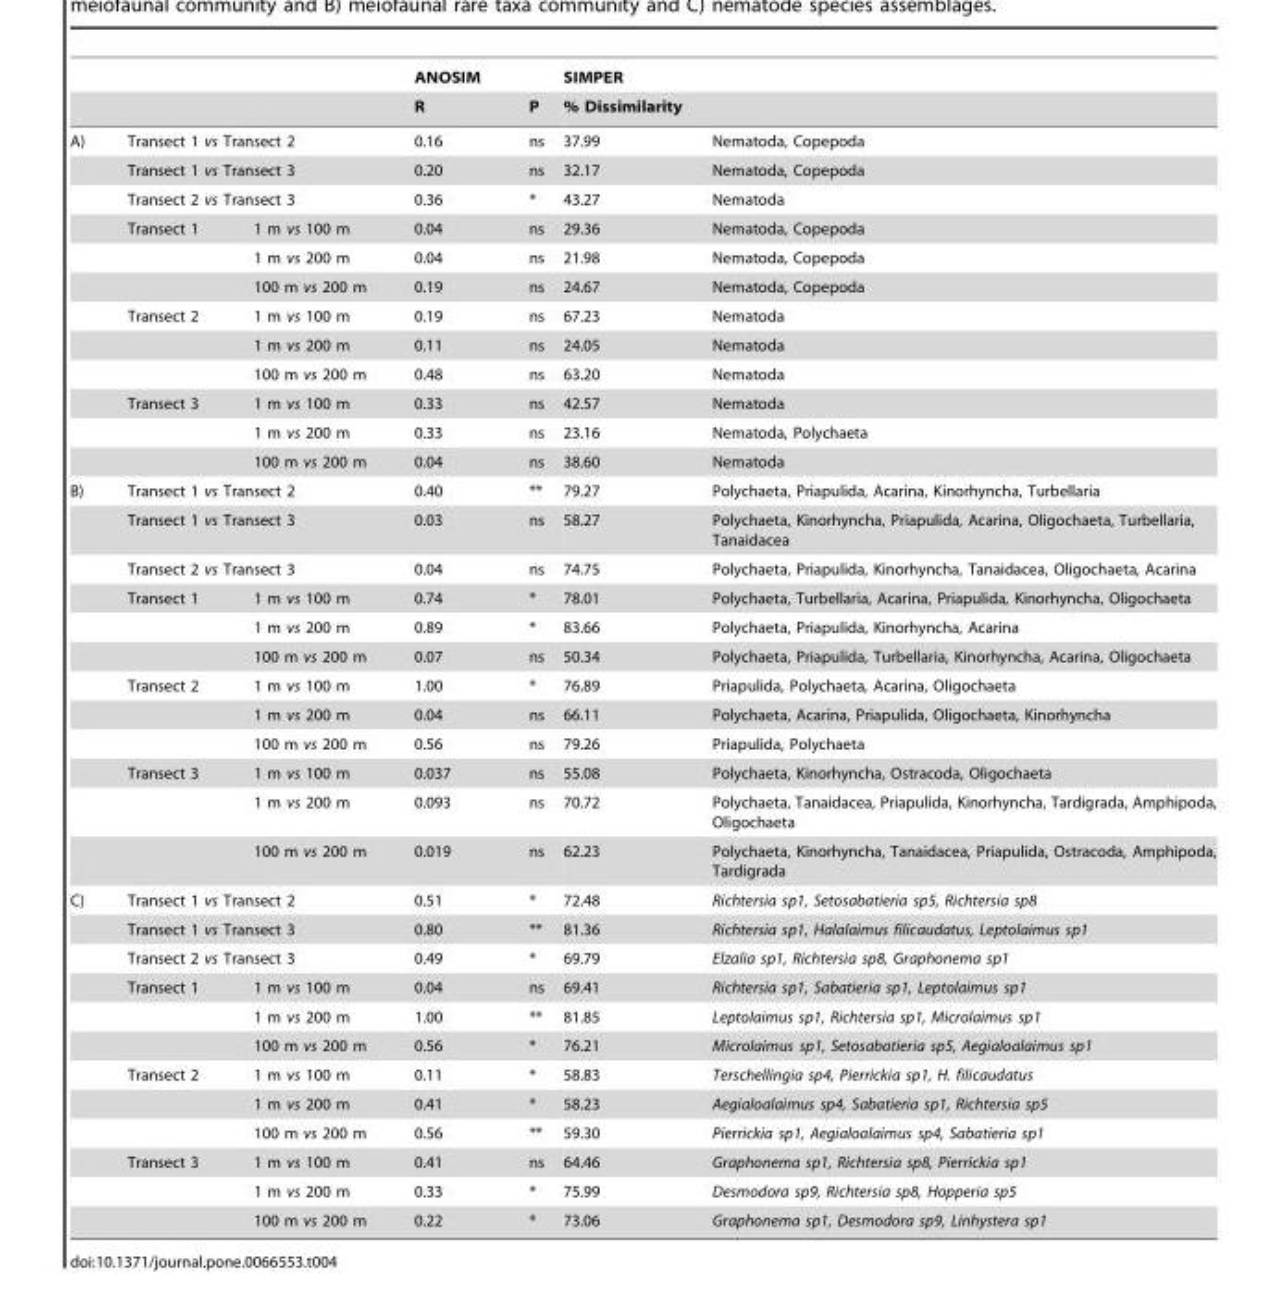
<table><thead><tr><td rowspan="2"></td><td rowspan="2"></td><td rowspan="2"></td><td rowspan="2">ANOSIM R</td><td rowspan="2">P</td><td rowspan="2">SIMPER % Dissimilarity</td><td rowspan="2"></td></tr><tr></tr></thead><tbody><tr><td rowspan="12">A)</td><td colspan="2">Transect 1 vs Transect 2</td><td>0.16</td><td>ns</td><td>37.99</td><td>Nematoda, Copepoda</td></tr><tr><td colspan="2">Transect 1 vs Transect 3</td><td>0.20</td><td>ns</td><td>32.17</td><td>Nematoda, Copepoda</td></tr><tr><td colspan="2">Transect 2 vs Transect 3</td><td>0.36</td><td>*</td><td>43.27</td><td>Nematoda</td></tr><tr><td>Transect 1</td><td>1 m vs 100 m</td><td>0.04</td><td>ns</td><td>29.36</td><td>Nematoda, Copepoda</td></tr><tr><td></td><td>1 m vs 200 m</td><td>0.04</td><td>ns</td><td>21.98</td><td>Nematoda, Copepoda</td></tr><tr><td></td><td>100 m vs 200 m</td><td>0.19</td><td>ns</td><td>24.67</td><td>Nematoda, Copepoda</td></tr><tr><td>Transect 2</td><td>1 m vs 100 m</td><td>0.19</td><td>ns</td><td>67.23</td><td>Nematoda</td></tr><tr><td></td><td>1 m vs 200 m</td><td>0.11</td><td>ns</td><td>24.05</td><td>Nematoda</td></tr><tr><td></td><td>100 m vs 200 m</td><td>0.48</td><td>ns</td><td>63.20</td><td>Nematoda</td></tr><tr><td>Transect 3</td><td>1 m vs 100 m</td><td>0.33</td><td>ns</td><td>42.57</td><td>Nematoda</td></tr><tr><td></td><td>1 m vs 200 m</td><td>0.33</td><td>ns</td><td>23.16</td><td>Nematoda, Polychaeta</td></tr><tr><td></td><td>100 m vs 200 m</td><td>0.04</td><td>ns</td><td>38.60</td><td>Nematoda</td></tr><tr><td rowspan="12">B)</td><td colspan="2">Transect 1 vs Transect 2</td><td>0.40</td><td>**</td><td>79.27</td><td>Polychaeta, Priapulida, Acarina, Kinorhyncha, Turbellaria</td></tr><tr><td colspan="2">Transect 1 vs Transect 3</td><td>0.03</td><td>ns</td><td>58.27</td><td>Polychaeta, Kinorhyncha, Priapulida, Acarina, Oligochaeta, Turbellaria, Tanaidacea</td></tr><tr><td colspan="2">Transect 2 vs Transect 3</td><td>0.04</td><td>ns</td><td>74.75</td><td>Polychaeta, Priapulida, Kinorhyncha, Tanaidacea, Oligochaeta, Acarina</td></tr><tr><td>Transect 1</td><td>1 m vs 100 m</td><td>0.74</td><td>*</td><td>78.01</td><td>Polychaeta, Turbellaria, Acarina, Priapulida, Kinorhyncha, Oligochaeta</td></tr><tr><td></td><td>1 m vs 200 m</td><td>0.89</td><td>*</td><td>83.66</td><td>Polychaeta, Priapulida, Kinorhyncha, Acarina</td></tr><tr><td></td><td>100 m vs 200 m</td><td>0.07</td><td>ns</td><td>50.34</td><td>Polychaeta, Priapulida, Turbellaria, Kinorhyncha, Acarina, Oligochaeta</td></tr><tr><td>Transect 2</td><td>1 m vs 100 m</td><td>1.00</td><td>*</td><td>76.89</td><td>Priapulida, Polychaeta, Acarina, Oligochaeta</td></tr><tr><td></td><td>1 m vs 200 m</td><td>0.04</td><td>ns</td><td>66.11</td><td>Polychaeta, Acarina, Priapulida, Oligochaeta, Kinorhyncha</td></tr><tr><td></td><td>100 m vs 200 m</td><td>0.56</td><td>ns</td><td>79.26</td><td>Priapulida, Polychaeta</td></tr><tr><td>Transect 3</td><td>1 m vs 100 m</td><td>0.037</td><td>ns</td><td>55.08</td><td>Polychaeta, Kinorhyncha, Ostracoda, Oligochaeta</td></tr><tr><td></td><td>1 m vs 200 m</td><td>0.093</td><td>ns</td><td>70.72</td><td>Polychaeta, Tanaidacea, Priapulida, Kinorhyncha, Tardigrada, Amphipoda, Oligochaeta</td></tr><tr><td></td><td>100 m vs 200 m</td><td>0.019</td><td>ns</td><td>62.23</td><td>Polychaeta, Kinorhyncha, Tanaidacea, Priapulida, Ostracoda, Amphipoda, Tardigrada</td></tr><tr><td rowspan="12">C)</td><td colspan="2">Transect 1 vs Transect 2</td><td>0.51</td><td>*</td><td>72.48</td><td>Richtersia sp1, Setosabatieria sp5, Richtersia sp8</td></tr><tr><td colspan="2">Transect 1 vs Transect 3</td><td>0.80</td><td>**</td><td>81.36</td><td>Richtersia sp1, Halalaimus filicaudatus, Leptolaimus sp1</td></tr><tr><td colspan="2">Transect 2 vs Transect 3</td><td>0.49</td><td>*</td><td>69.79</td><td>Elzalia sp1, Richtersia sp8, Graphonema sp1</td></tr><tr><td>Transect 1</td><td>1 m vs 100 m</td><td>0.04</td><td>ns</td><td>69.41</td><td>Richtersia sp1, Sabatieria sp1, Leptolaimus sp1</td></tr><tr><td></td><td>1 m vs 200 m</td><td>1.00</td><td>**</td><td>81.85</td><td>Leptolaimus sp1, Richtersia sp1, Microlaimus sp1</td></tr><tr><td></td><td>100 m vs 200 m</td><td>0.56</td><td>*</td><td>76.21</td><td>Microlaimus sp1, Setosabatieria sp5, Aegialoalaimus sp1</td></tr><tr><td>Transect 2</td><td>1 m vs 100 m</td><td>0.11</td><td>*</td><td>58.83</td><td>Terschellingia sp4, Pierrickia sp1, H. filicaudatus</td></tr><tr><td></td><td>1 m vs 200 m</td><td>0.41</td><td>*</td><td>58.23</td><td>Aegialoalaimus sp4, Sabatieria sp1, Richtersia sp5</td></tr><tr><td></td><td>100 m vs 200 m</td><td>0.56</td><td>**</td><td>59.30</td><td>Pierrickia sp1, Aegialoalaimus sp4, Sabatieria sp1</td></tr><tr><td>Transect 3</td><td>1 m vs 100 m</td><td>0.41</td><td>ns</td><td>64.46</td><td>Graphonema sp1, Richtersia sp8, Pierrickia sp1</td></tr><tr><td></td><td>1 m vs 200 m</td><td>0.33</td><td>*</td><td>75.99</td><td>Desmodora sp9, Richtersia sp8, Hopperia sp5</td></tr><tr><td></td><td>100 m vs 200 m</td><td>0.22</td><td>*</td><td>73.06</td><td>Graphonema sp1, Desmodora sp9, Linhystera sp1</td></tr></tbody></table>